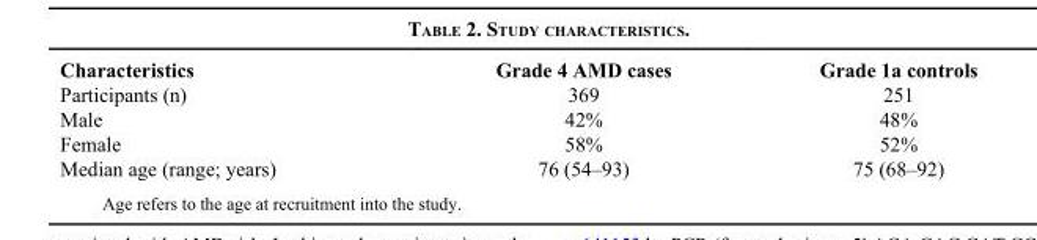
<table><thead><tr><td>Characteristics</td><td>Grade 4 AMD cases</td><td>Grade 1a controls</td></tr></thead><tbody><tr><td>Participants (n)</td><td>369</td><td>251</td></tr><tr><td>Male</td><td>42%</td><td>48%</td></tr><tr><td>Female</td><td>58%</td><td>52%</td></tr><tr><td>Median age (range; years)</td><td>76 (54–93)</td><td>75 (68–92)</td></tr></tbody></table>